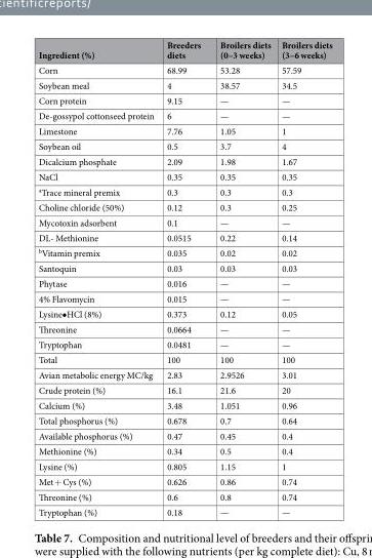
<table><thead><tr><td>Ingredient (%)</td><td>Breeders diets</td><td>Broilers diets (0–3 weeks)</td><td>Broilers diets (3–6 weeks)</td></tr></thead><tbody><tr><td>Corn</td><td>68.99</td><td>53.28</td><td>57.59</td></tr><tr><td>Soybean meal</td><td>4</td><td>38.57</td><td>34.5</td></tr><tr><td>Corn protein</td><td>9.15</td><td>—</td><td>—</td></tr><tr><td>De-gossypol cottonseed protein</td><td>6</td><td>—</td><td>—</td></tr><tr><td>Limestone</td><td>7.76</td><td>1.05</td><td>1</td></tr><tr><td>Soybean oil</td><td>0.5</td><td>3.7</td><td>4</td></tr><tr><td>Dicalcium phosphate</td><td>2.09</td><td>1.98</td><td>1.67</td></tr><tr><td>NaCl</td><td>0.35</td><td>0.35</td><td>0.35</td></tr><tr><td><sup>a</sup>Trace mineral premix</td><td>0.3</td><td>0.3</td><td>0.3</td></tr><tr><td>Choline chloride (50%)</td><td>0.12</td><td>0.3</td><td>0.25</td></tr><tr><td>Mycotoxin adsorbent</td><td>0.1</td><td>—</td><td>—</td></tr><tr><td>DL- Methionine</td><td>0.0515</td><td>0.22</td><td>0.14</td></tr><tr><td><sup>b</sup>Vitamin premix</td><td>0.035</td><td>0.02</td><td>0.02</td></tr><tr><td>Santoquin</td><td>0.03</td><td>0.03</td><td>0.03</td></tr><tr><td>Phytase</td><td>0.016</td><td>—</td><td>—</td></tr><tr><td>4% Flavomycin</td><td>0.015</td><td>—</td><td>—</td></tr><tr><td>Lysine•HCl (8%)</td><td>0.373</td><td>0.12</td><td>0.05</td></tr><tr><td>Threonine</td><td>0.0664</td><td>—</td><td>—</td></tr><tr><td>Tryptophan</td><td>0.0481</td><td>—</td><td>—</td></tr><tr><td>Total</td><td>100</td><td>100</td><td>100</td></tr><tr><td>Avian metabolic energy MC/kg</td><td>2.83</td><td>2.9526</td><td>3.01</td></tr><tr><td>Crude protein (%)</td><td>16.1</td><td>21.6</td><td>20</td></tr><tr><td>Calcium (%)</td><td>3.48</td><td>1.051</td><td>0.96</td></tr><tr><td>Total phosphorus (%)</td><td>0.678</td><td>0.7</td><td>0.64</td></tr><tr><td>Available phosphorus (%)</td><td>0.47</td><td>0.45</td><td>0.4</td></tr><tr><td>Methionine (%)</td><td>0.34</td><td>0.5</td><td>0.4</td></tr><tr><td>Lysine (%)</td><td>0.805</td><td>1.15</td><td>1</td></tr><tr><td>Met + Cys (%)</td><td>0.626</td><td>0.86</td><td>0.74</td></tr><tr><td>Threonine (%)</td><td>0.6</td><td>0.8</td><td>0.74</td></tr><tr><td>Tryptophan (%)</td><td>0.18</td><td>—</td><td>—</td></tr></tbody></table>